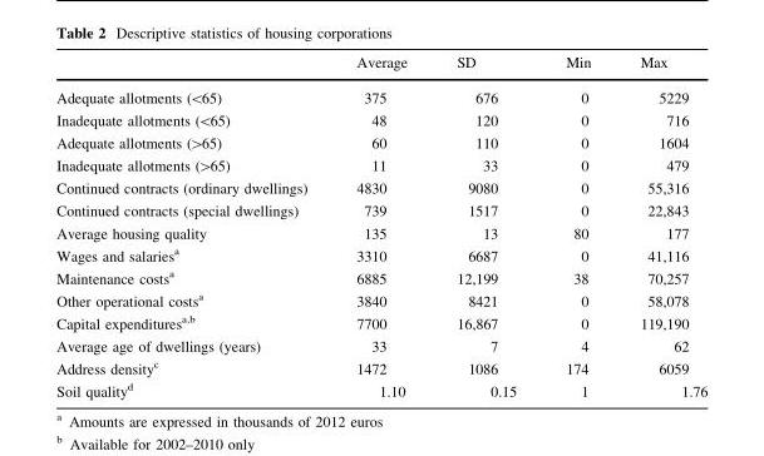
<table><thead><tr><td></td><td>Average</td><td>SD</td><td>Min</td><td>Max</td></tr></thead><tbody><tr><td>Adequate allotments (&lt;65)</td><td>375</td><td>676</td><td>0</td><td>5229</td></tr><tr><td>Inadequate allotments (&lt;65)</td><td>48</td><td>120</td><td>0</td><td>716</td></tr><tr><td>Adequate allotments (&gt;65)</td><td>60</td><td>110</td><td>0</td><td>1604</td></tr><tr><td>Inadequate allotments (&gt;65)</td><td>11</td><td>33</td><td>0</td><td>479</td></tr><tr><td>Continued contracts (ordinary dwellings)</td><td>4830</td><td>9080</td><td>0</td><td>55,316</td></tr><tr><td>Continued contracts (special dwellings)</td><td>739</td><td>1517</td><td>0</td><td>22,843</td></tr><tr><td>Average housing quality</td><td>135</td><td>13</td><td>80</td><td>177</td></tr><tr><td>Wages and salaries<sup>a</sup></td><td>3310</td><td>6687</td><td>0</td><td>41,116</td></tr><tr><td>Maintenance costs<sup>a</sup></td><td>6885</td><td>12,199</td><td>38</td><td>70,257</td></tr><tr><td>Other operational costs<sup>a</sup></td><td>3840</td><td>8421</td><td>0</td><td>58,078</td></tr><tr><td>Capital expenditures<sup>a,b</sup></td><td>7700</td><td>16,867</td><td>0</td><td>119,190</td></tr><tr><td>Average age of dwellings (years)</td><td>33</td><td>7</td><td>4</td><td>62</td></tr><tr><td>Address density<sup>c</sup></td><td>1472</td><td>1086</td><td>174</td><td>6059</td></tr><tr><td>Soil quality<sup>d</sup></td><td>1.10</td><td>0.15</td><td>1</td><td>1.76</td></tr></tbody></table>